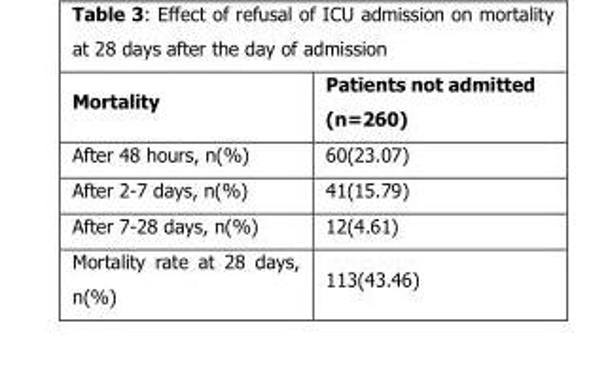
<table><thead><tr><td>Mortality</td><td>Patients not admitted (n=260)</td></tr></thead><tbody><tr><td>After 48 hours, n(%)</td><td>60(23.07)</td></tr><tr><td>After 2-7 days, n(%)</td><td>41(15.79)</td></tr><tr><td>After 7-28 days, n(%)</td><td>12(4.61)</td></tr><tr><td>Mortality rate at 28 days, n(%)</td><td>113(43.46)</td></tr></tbody></table>